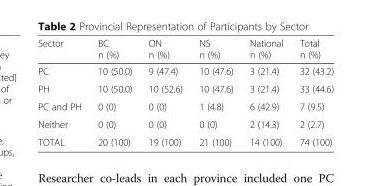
<table><thead><tr><td>Sector</td><td>BC n (%)</td><td>ON n (%)</td><td>NS n (%)</td><td>National n (%)</td><td>Total n (%)</td></tr></thead><tbody><tr><td>PC</td><td>10 (50.0)</td><td>9 (47.4)</td><td>10 (47.6)</td><td>3 (21.4)</td><td>32 (43.2)</td></tr><tr><td>PH</td><td>10 (50.0)</td><td>10 (52.6)</td><td>10 (47.6)</td><td>3 (21.4)</td><td>33 (44.6)</td></tr><tr><td>PC and PH</td><td>0 (0)</td><td>0 (0)</td><td>1 (4.8)</td><td>6 (42.9)</td><td>7 (9.5)</td></tr><tr><td>Neither</td><td>0 (0)</td><td>0 (0)</td><td>0 (0)</td><td>2 (14.3)</td><td>2 (2.7)</td></tr><tr><td>TOTAL</td><td>20 (100)</td><td>19 (100)</td><td>21 (100)</td><td>14 (100)</td><td>74 (100)</td></tr></tbody></table>